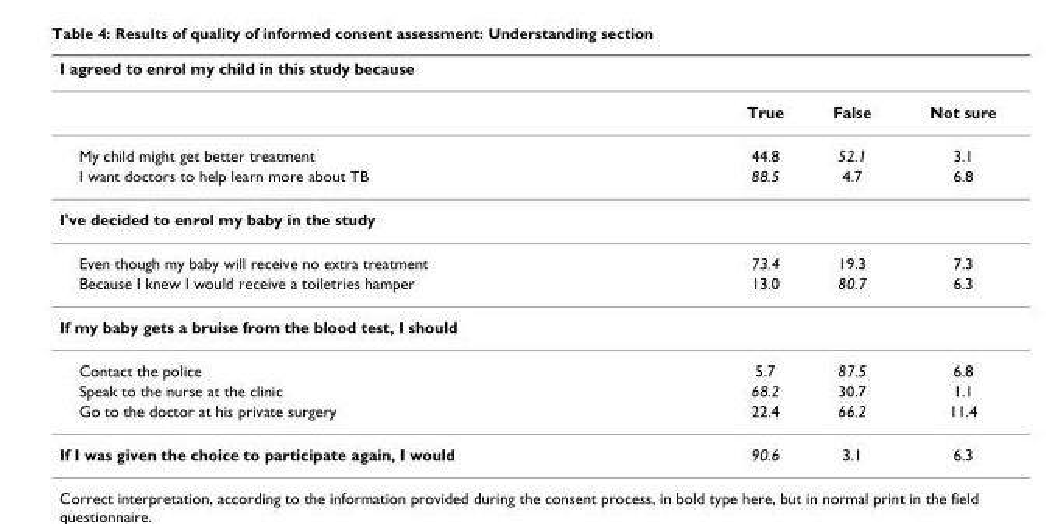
<table><thead><tr><td>I agreed to enrol my child in this study because</td><td></td><td></td><td></td></tr></thead><tbody><tr><td></td><td>True</td><td>False</td><td>Not sure</td></tr><tr><td>My child might get better treatment</td><td>44.8</td><td>52.1</td><td>3.1</td></tr><tr><td>I want doctors to help learn more about TB</td><td>88.5</td><td>4.7</td><td>6.8</td></tr><tr><td colspan="4">I&#x27;ve decided to enrol my baby in the study</td></tr><tr><td>Even though my baby will receive no extra treatment</td><td>73.4</td><td>19.3</td><td>7.3</td></tr><tr><td>Because I knew I would receive a toiletries hamper</td><td>13.0</td><td>80.7</td><td>6.3</td></tr><tr><td colspan="4">If my baby gets a bruise from the blood test, I should</td></tr><tr><td>Contact the police</td><td>5.7</td><td>87.5</td><td>6.8</td></tr><tr><td>Speak to the nurse at the clinic</td><td>68.2</td><td>30.7</td><td>1.1</td></tr><tr><td>Go to the doctor at his private surgery</td><td>22.4</td><td>66.2</td><td>11.4</td></tr><tr><td>If I was given the choice to participate again, I would</td><td>90.6</td><td>3.1</td><td>6.3</td></tr></tbody></table>